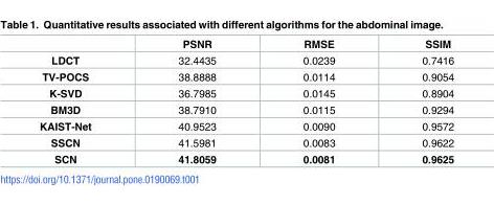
<table><thead><tr><td></td><td>PSNR</td><td>RMSE</td><td>SSIM</td></tr></thead><tbody><tr><td>LDCT</td><td>32.4435</td><td>0.0239</td><td>0.7416</td></tr><tr><td>TV-POCS</td><td>38.8888</td><td>0.0114</td><td>0.9054</td></tr><tr><td>K-SVD</td><td>36.7985</td><td>0.0145</td><td>0.8904</td></tr><tr><td>BM3D</td><td>38.7910</td><td>0.0115</td><td>0.9294</td></tr><tr><td>KAIST-Net</td><td>40.9523</td><td>0.0090</td><td>0.9572</td></tr><tr><td>SSCN</td><td>41.5981</td><td>0.0083</td><td>0.9622</td></tr><tr><td>SCN</td><td>41.8059</td><td>0.0081</td><td>0.9625</td></tr></tbody></table>